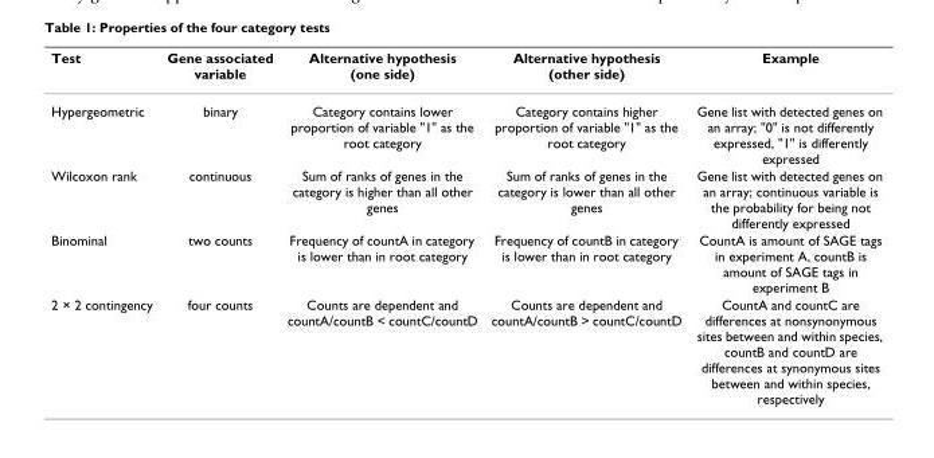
<table><thead><tr><td>Test</td><td>Gene associated variable</td><td>Alternative hypothesis (one side)</td><td>Alternative hypothesis (other side)</td><td>Example</td></tr></thead><tbody><tr><td>Hypergeometric</td><td>binary</td><td>Category contains lower proportion of variable &quot;1&quot; as the root category</td><td>Category contains higher proportion of variable &quot;1&quot; as the root category</td><td>Gene list with detected genes on an array; &quot;0&quot; is not differently expressed, &quot;1&quot; is differently expressed</td></tr><tr><td>Wilcoxon rank</td><td>continuous</td><td>Sum of ranks of genes in the category is higher than all other genes</td><td>Sum of ranks of genes in the category is lower than all other genes</td><td>Gene list with detected genes on an array; continuous variable is the probability for being not differently expressed</td></tr><tr><td>Binominal</td><td>two counts</td><td>Frequency of countA in category is lower than in root category</td><td>Frequency of countB in category is lower than in root category</td><td>CountA is amount of SAGE tags in experiment A, countB is amount of SAGE tags in experiment B</td></tr><tr><td>2 × 2 contingency</td><td>four counts</td><td>Counts are dependent and countA/countB &lt; countC/countD</td><td>Counts are dependent and countA/countB &gt; countC/countD</td><td>CountA and countC are differences at nonsynonymous sites between and within species, countB and countD are differences at synonymous sites between and within species, respectively</td></tr></tbody></table>